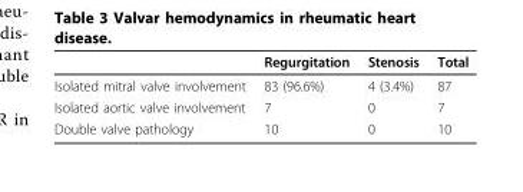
<table><thead><tr><td></td><td>Regurgitation</td><td>Stenosis</td><td>Total</td></tr></thead><tbody><tr><td>Isolated mitral valve involvement</td><td>83 (96.6%)</td><td>4 (3.4%)</td><td>87</td></tr><tr><td>Isolated aortic valve involvement</td><td>7</td><td>0</td><td>7</td></tr><tr><td>Double valve pathology</td><td>10</td><td>0</td><td>10</td></tr></tbody></table>